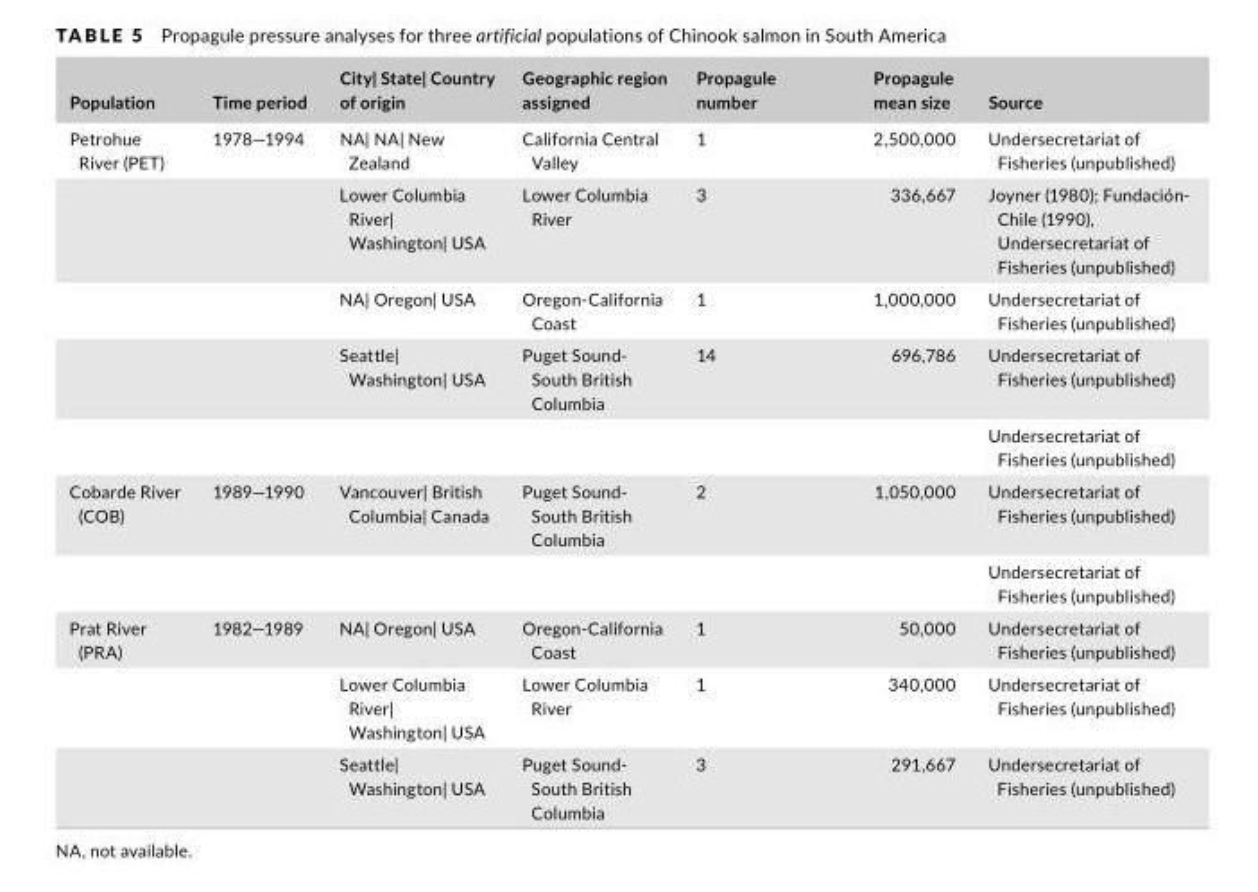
<table><thead><tr><td>Population</td><td>Time period</td><td>City| State| Country of origin</td><td>Geographic region assigned</td><td>Propagule number</td><td>Propagule mean size</td><td>Source</td></tr></thead><tbody><tr><td rowspan="5">Petrohue River (PET)</td><td>1978—1994</td><td>NA| NA| New Zealand</td><td>California Central Valley</td><td>1</td><td>2,500,000</td><td>Undersecretariat of Fisheries (unpublished)</td></tr><tr><td></td><td>Lower Columbia River| Washington| USA</td><td>Lower Columbia River</td><td>3</td><td>336,667</td><td>Joyner (1980); Fundación- Chile (1990), Undersecretariat of Fisheries (unpublished)</td></tr><tr><td></td><td>NA| Oregon| USA</td><td>Oregon- California Coast</td><td>1</td><td>1,000,000</td><td>Undersecretariat of Fisheries (unpublished)</td></tr><tr><td></td><td>Seattle| Washington| USA</td><td>Puget Sound- South British Columbia</td><td>14</td><td>696,786</td><td>Undersecretariat of Fisheries (unpublished)</td></tr><tr><td></td><td></td><td></td><td></td><td></td><td>Undersecretariat of Fisheries (unpublished)</td></tr><tr><td rowspan="2">Cobarde River (COB)</td><td>1989—1990</td><td>Vancouver| British Columbia| Canada</td><td>Puget Sound- South British Columbia</td><td>2</td><td>1,050,000</td><td>Undersecretariat of Fisheries (unpublished)</td></tr><tr><td></td><td></td><td></td><td></td><td></td><td>Undersecretariat of Fisheries (unpublished)</td></tr><tr><td rowspan="3">Prat River (PRA)</td><td>1982—1989</td><td>NA| Oregon| USA</td><td>Oregon- California Coast</td><td>1</td><td>50,000</td><td>Undersecretariat of Fisheries (unpublished)</td></tr><tr><td></td><td>Lower Columbia River| Washington| USA</td><td>Lower Columbia River</td><td>1</td><td>340,000</td><td>Undersecretariat of Fisheries (unpublished)</td></tr><tr><td></td><td>Seattle| Washington| USA</td><td>Puget Sound- South British Columbia</td><td>3</td><td>291,667</td><td>Undersecretariat of Fisheries (unpublished)</td></tr></tbody></table>